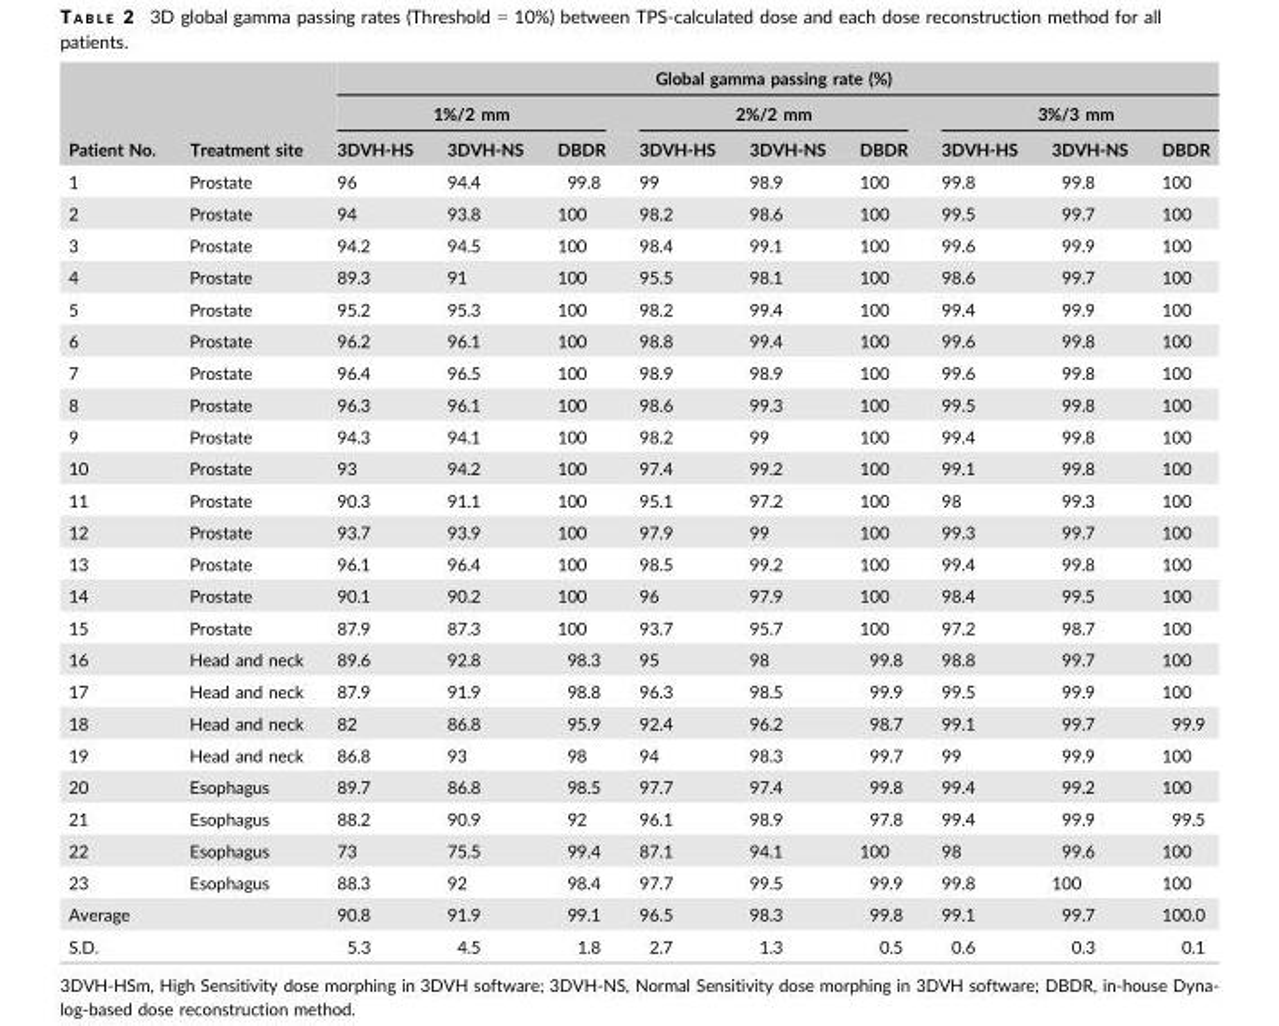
<table><thead><tr><td rowspan="3">Patient No.</td><td rowspan="3">Treatment site</td><td colspan="9">Global gamma passing rate (%)</td></tr><tr><td colspan="3">1%/2 mm</td><td colspan="3">2%/2 mm</td><td colspan="3">3%/3 mm</td></tr><tr><td>3DVH-HS</td><td>3DVH-NS</td><td>DBDR</td><td>3DVH-HS</td><td>3DVH-NS</td><td>DBDR</td><td>3DVH-HS</td><td>3DVH-NS</td><td>DBDR</td></tr></thead><tbody><tr><td>1</td><td>Prostate</td><td>96</td><td>94.4</td><td>99.8</td><td>99</td><td>98.9</td><td>100</td><td>99.8</td><td>99.8</td><td>100</td></tr><tr><td>2</td><td>Prostate</td><td>94</td><td>93.8</td><td>100</td><td>98.2</td><td>98.6</td><td>100</td><td>99.5</td><td>99.7</td><td>100</td></tr><tr><td>3</td><td>Prostate</td><td>94.2</td><td>94.5</td><td>100</td><td>98.4</td><td>99.1</td><td>100</td><td>99.6</td><td>99.9</td><td>100</td></tr><tr><td>4</td><td>Prostate</td><td>89.3</td><td>91</td><td>100</td><td>95.5</td><td>98.1</td><td>100</td><td>98.6</td><td>99.7</td><td>100</td></tr><tr><td>5</td><td>Prostate</td><td>95.2</td><td>95.3</td><td>100</td><td>98.2</td><td>99.4</td><td>100</td><td>99.4</td><td>99.9</td><td>100</td></tr><tr><td>6</td><td>Prostate</td><td>96.2</td><td>96.1</td><td>100</td><td>98.8</td><td>99.4</td><td>100</td><td>99.6</td><td>99.8</td><td>100</td></tr><tr><td>7</td><td>Prostate</td><td>96.4</td><td>96.5</td><td>100</td><td>98.9</td><td>98.9</td><td>100</td><td>99.6</td><td>99.8</td><td>100</td></tr><tr><td>8</td><td>Prostate</td><td>96.3</td><td>96.1</td><td>100</td><td>98.6</td><td>99.3</td><td>100</td><td>99.5</td><td>99.8</td><td>100</td></tr><tr><td>9</td><td>Prostate</td><td>94.3</td><td>94.1</td><td>100</td><td>98.2</td><td>99</td><td>100</td><td>99.4</td><td>99.8</td><td>100</td></tr><tr><td>10</td><td>Prostate</td><td>93</td><td>94.2</td><td>100</td><td>97.4</td><td>99.2</td><td>100</td><td>99.1</td><td>99.8</td><td>100</td></tr><tr><td>11</td><td>Prostate</td><td>90.3</td><td>91.1</td><td>100</td><td>95.1</td><td>97.2</td><td>100</td><td>98</td><td>99.3</td><td>100</td></tr><tr><td>12</td><td>Prostate</td><td>93.7</td><td>93.9</td><td>100</td><td>97.9</td><td>99</td><td>100</td><td>99.3</td><td>99.7</td><td>100</td></tr><tr><td>13</td><td>Prostate</td><td>96.1</td><td>96.4</td><td>100</td><td>98.5</td><td>99.2</td><td>100</td><td>99.4</td><td>99.8</td><td>100</td></tr><tr><td>14</td><td>Prostate</td><td>90.1</td><td>90.2</td><td>100</td><td>96</td><td>97.9</td><td>100</td><td>98.4</td><td>99.5</td><td>100</td></tr><tr><td>15</td><td>Prostate</td><td>87.9</td><td>87.3</td><td>100</td><td>93.7</td><td>95.7</td><td>100</td><td>97.2</td><td>98.7</td><td>100</td></tr><tr><td>16</td><td>Head and neck</td><td>89.6</td><td>92.8</td><td>98.3</td><td>95</td><td>98</td><td>99.8</td><td>98.8</td><td>99.7</td><td>100</td></tr><tr><td>17</td><td>Head and neck</td><td>87.9</td><td>91.9</td><td>98.8</td><td>96.3</td><td>98.5</td><td>99.9</td><td>99.5</td><td>99.9</td><td>100</td></tr><tr><td>18</td><td>Head and neck</td><td>82</td><td>86.8</td><td>95.9</td><td>92.4</td><td>96.2</td><td>98.7</td><td>99.1</td><td>99.7</td><td>99.9</td></tr><tr><td>19</td><td>Head and neck</td><td>86.8</td><td>93</td><td>98</td><td>94</td><td>98.3</td><td>99.7</td><td>99</td><td>99.9</td><td>100</td></tr><tr><td>20</td><td>Esophagus</td><td>89.7</td><td>86.8</td><td>98.5</td><td>97.7</td><td>97.4</td><td>99.8</td><td>99.4</td><td>99.2</td><td>100</td></tr><tr><td>21</td><td>Esophagus</td><td>88.2</td><td>90.9</td><td>92</td><td>96.1</td><td>98.9</td><td>97.8</td><td>99.4</td><td>99.9</td><td>99.5</td></tr><tr><td>22</td><td>Esophagus</td><td>73</td><td>75.5</td><td>99.4</td><td>87.1</td><td>94.1</td><td>100</td><td>98</td><td>99.6</td><td>100</td></tr><tr><td>23</td><td>Esophagus</td><td>88.3</td><td>92</td><td>98.4</td><td>97.7</td><td>99.5</td><td>99.9</td><td>99.8</td><td>100</td><td>100</td></tr><tr><td>Average</td><td></td><td>90.8</td><td>91.9</td><td>99.1</td><td>96.5</td><td>98.3</td><td>99.8</td><td>99.1</td><td>99.7</td><td>100.0</td></tr><tr><td>S.D.</td><td></td><td>5.3</td><td>4.5</td><td>1.8</td><td>2.7</td><td>1.3</td><td>0.5</td><td>0.6</td><td>0.3</td><td>0.1</td></tr></tbody></table>